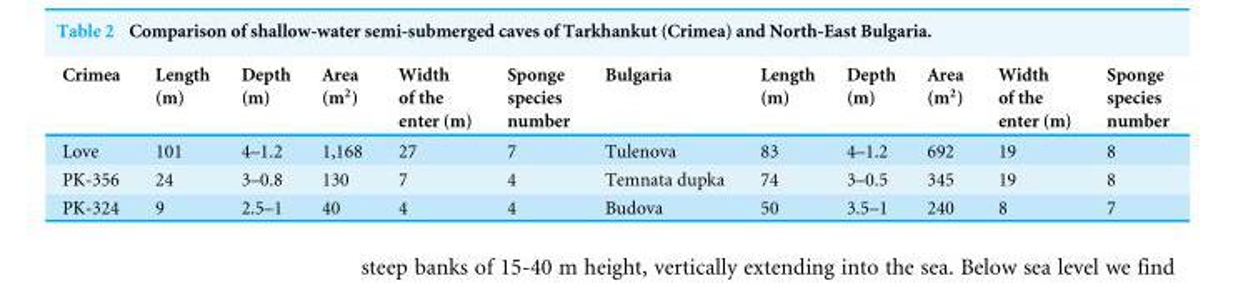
<table><thead><tr><td>Crimea</td><td>Length (m)</td><td>Depth (m)</td><td>Area (m<sup>2</sup>)</td><td>Width of the enter (m)</td><td>Sponge species number</td><td>Bulgaria</td><td>Length (m)</td><td>Depth (m)</td><td>Area (m<sup>2</sup>)</td><td>Width of the enter (m)</td><td>Sponge species number</td></tr></thead><tbody><tr><td>Love</td><td>101</td><td>4–1.2</td><td>1,168</td><td>27</td><td>7</td><td>Tulenova</td><td>83</td><td>4–1.2</td><td>692</td><td>19</td><td>8</td></tr><tr><td>PK-356</td><td>24</td><td>3–0.8</td><td>130</td><td>7</td><td>4</td><td>Temnata dupka</td><td>74</td><td>3–0.5</td><td>345</td><td>19</td><td>8</td></tr><tr><td>PK-324</td><td>9</td><td>2.5–1</td><td>40</td><td>4</td><td>4</td><td>Budova</td><td>50</td><td>3.5–1</td><td>240</td><td>8</td><td>7</td></tr></tbody></table>